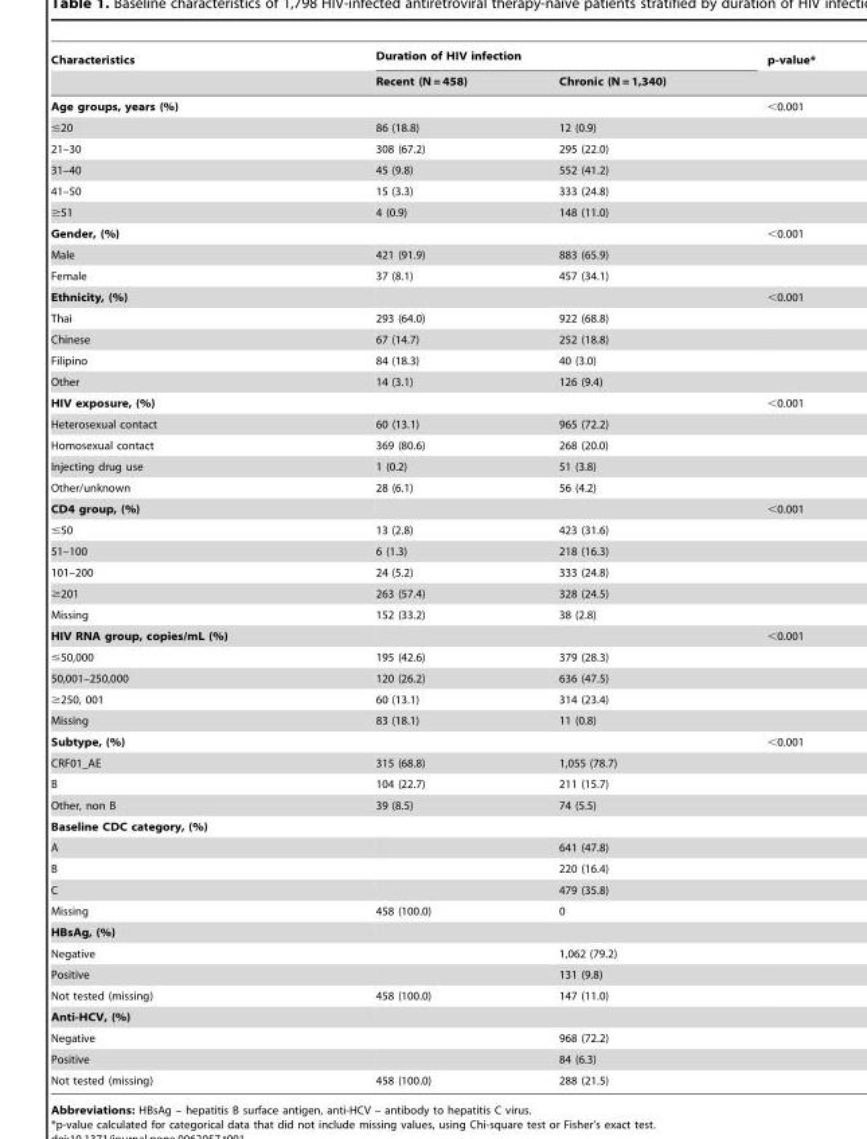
<table><thead><tr><td rowspan="2">Characteristics</td><td colspan="2">Duration of HIV infection</td><td rowspan="2">p-value*</td></tr><tr><td>Recent (N = 458)</td><td>Chronic (N = 1,340)</td></tr></thead><tbody><tr><td>Age groups, years (%)</td><td></td><td></td><td>&lt;0.001</td></tr><tr><td>≤20</td><td>86 (18.8)</td><td>12 (0.9)</td><td></td></tr><tr><td>21–30</td><td>308 (67.2)</td><td>295 (22.0)</td><td></td></tr><tr><td>31–40</td><td>45 (9.8)</td><td>552 (41.2)</td><td></td></tr><tr><td>41–50</td><td>15 (3.3)</td><td>333 (24.8)</td><td></td></tr><tr><td>≥51</td><td>4 (0.9)</td><td>148 (11.0)</td><td></td></tr><tr><td>Gender, (%)</td><td></td><td></td><td>&lt;0.001</td></tr><tr><td>Male</td><td>421 (91.9)</td><td>883 (65.9)</td><td></td></tr><tr><td>Female</td><td>37 (8.1)</td><td>457 (34.1)</td><td></td></tr><tr><td>Ethnicity, (%)</td><td></td><td></td><td>&lt;0.001</td></tr><tr><td>Thai</td><td>293 (64.0)</td><td>922 (68.8)</td><td></td></tr><tr><td>Chinese</td><td>67 (14.7)</td><td>252 (18.8)</td><td></td></tr><tr><td>Filipino</td><td>84 (18.3)</td><td>40 (3.0)</td><td></td></tr><tr><td>Other</td><td>14 (3.1)</td><td>126 (9.4)</td><td></td></tr><tr><td>HIV exposure, (%)</td><td></td><td></td><td>&lt;0.001</td></tr><tr><td>Heterosexual contact</td><td>60 (13.1)</td><td>965 (72.2)</td><td></td></tr><tr><td>Homosexual contact</td><td>369 (80.6)</td><td>268 (20.0)</td><td></td></tr><tr><td>Injecting drug use</td><td>1 (0.2)</td><td>51 (3.8)</td><td></td></tr><tr><td>Other/unknown</td><td>28 (6.1)</td><td>56 (4.2)</td><td></td></tr><tr><td>CD4 group, (%)</td><td></td><td></td><td>&lt;0.001</td></tr><tr><td>≤50</td><td>13 (2.8)</td><td>423 (31.6)</td><td></td></tr><tr><td>51–100</td><td>6 (1.3)</td><td>218 (16.3)</td><td></td></tr><tr><td>101–200</td><td>24 (5.2)</td><td>333 (24.8)</td><td></td></tr><tr><td>≥201</td><td>263 (57.4)</td><td>328 (24.5)</td><td></td></tr><tr><td>Missing</td><td>152 (33.2)</td><td>38 (2.8)</td><td></td></tr><tr><td>HIV RNA group, copies/mL (%)</td><td></td><td></td><td>&lt;0.001</td></tr><tr><td>≤50,000</td><td>195 (42.6)</td><td>379 (28.3)</td><td></td></tr><tr><td>50,001–250,000</td><td>120 (26.2)</td><td>636 (47.5)</td><td></td></tr><tr><td>≥250, 001</td><td>60 (13.1)</td><td>314 (23.4)</td><td></td></tr><tr><td>Missing</td><td>83 (18.1)</td><td>11 (0.8)</td><td></td></tr><tr><td>Subtype, (%)</td><td></td><td></td><td>&lt;0.001</td></tr><tr><td>CRF01_AE</td><td>315 (68.8)</td><td>1,055 (78.7)</td><td></td></tr><tr><td>B</td><td>104 (22.7)</td><td>211 (15.7)</td><td></td></tr><tr><td>Other, non B</td><td>39 (8.5)</td><td>74 (5.5)</td><td></td></tr><tr><td colspan="4">Baseline CDC category, (%)</td></tr><tr><td>A</td><td></td><td>641 (47.8)</td><td></td></tr><tr><td>B</td><td></td><td>220 (16.4)</td><td></td></tr><tr><td>C</td><td></td><td>479 (35.8)</td><td></td></tr><tr><td>Missing</td><td>458 (100.0)</td><td>0</td><td></td></tr><tr><td colspan="4">HBsAg, (%)</td></tr><tr><td>Negative</td><td></td><td>1,062 (79.2)</td><td></td></tr><tr><td>Positive</td><td></td><td>131 (9.8)</td><td></td></tr><tr><td>Not tested (missing)</td><td>458 (100.0)</td><td>147 (11.0)</td><td></td></tr><tr><td colspan="4">Anti-HCV, (%)</td></tr><tr><td>Negative</td><td></td><td>968 (72.2)</td><td></td></tr><tr><td>Positive</td><td></td><td>84 (6.3)</td><td></td></tr><tr><td>Not tested (missing)</td><td>458 (100.0)</td><td>288 (21.5)</td><td></td></tr></tbody></table>